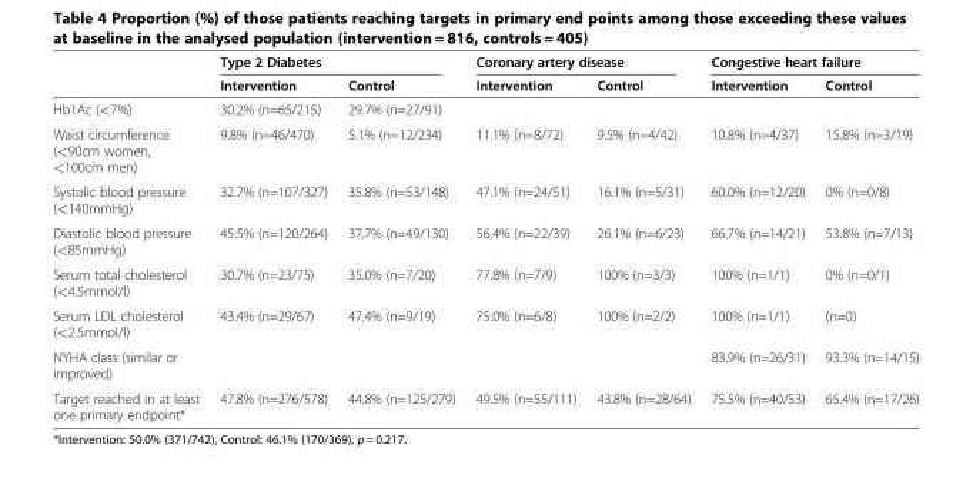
<table><thead><tr><td rowspan="2"></td><td colspan="2">Type 2 Diabetes</td><td colspan="2">Coronary artery disease</td><td colspan="2">Congestive heart failure</td></tr><tr><td>Intervention</td><td>Control</td><td>Intervention</td><td>Control</td><td>Intervention</td><td>Control</td></tr></thead><tbody><tr><td>Hb1Ac (&lt;7%)</td><td>30.2% (n=65/215)</td><td>29.7% (n=27/91)</td><td></td><td></td><td></td><td></td></tr><tr><td>Waist circumference (&lt;90cm women, &lt;100cm men)</td><td>9.8% (n=46/470)</td><td>5.1% (n=12/234)</td><td>11.1% (n=8/72)</td><td>9.5% (n=4/42)</td><td>10.8% (n=4/37)</td><td>15.8% (n=3/19)</td></tr><tr><td>Systolic blood pressure (&lt;140mmHg)</td><td>32.7% (n=107/327)</td><td>35.8% (n=53/148)</td><td>47.1% (n=24/51)</td><td>16.1% (n=5/31)</td><td>60.0% (n=12/20)</td><td>0% (n=0/8)</td></tr><tr><td>Diastolic blood pressure (&lt;85mmHg)</td><td>45.5% (n=120/264)</td><td>37.7% (n=49/130)</td><td>56.4% (n=22/39)</td><td>26.1% (n=6/23)</td><td>66.7% (n=14/21)</td><td>53.8% (n=7/13)</td></tr><tr><td>Serum total cholesterol (&lt;4.5mmol/l)</td><td>30.7% (n=23/75)</td><td>35.0% (n=7/20)</td><td>77.8% (n=7/9)</td><td>100% (n=3/3)</td><td>100% (n=1/1)</td><td>0% (n=0/1)</td></tr><tr><td>Serum LDL cholesterol (&lt;2.5mmol/l)</td><td>43.4% (n=29/67)</td><td>47.4% (n=9/19)</td><td>75.0% (n=6/8)</td><td>100% (n=2/2)</td><td>100% (n=1/1)</td><td>(n=0)</td></tr><tr><td>NYHA class (similar or improved)</td><td></td><td></td><td></td><td></td><td>83.9% (n=26/31)</td><td>93.3% (n=14/15)</td></tr><tr><td>Target reached in at least one primary endpoint*</td><td>47.8% (n=276/578)</td><td>44.8% (n=125/279)</td><td>49.5% (n=55/111)</td><td>43.8% (n=28/64)</td><td>75.5% (n=40/53)</td><td>65.4% (n=17/26)</td></tr></tbody></table>